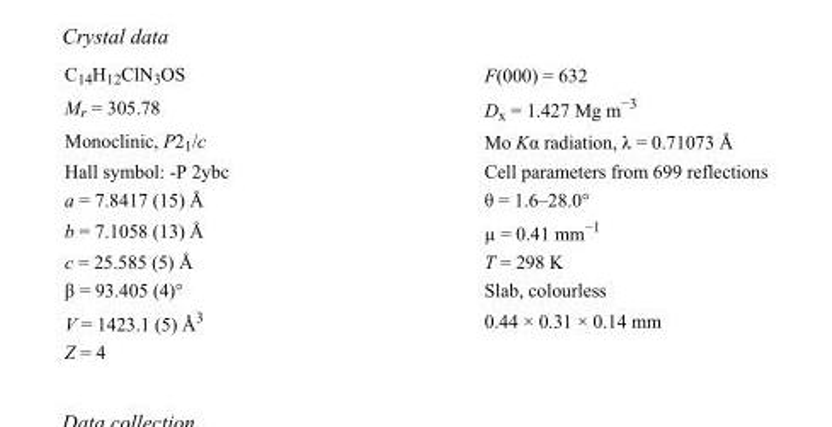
<table><tbody><tr><td>C<sub>14</sub>H<sub>12</sub>ClN<sub>3</sub>OS</td><td>F(000) = 632</td></tr><tr><td>M<sub>r</sub> = 305.78</td><td>D<sub>x</sub> = 1.427 Mg m<sup>−3</sup></td></tr><tr><td>Monoclinic, P2<sub>1</sub>/c</td><td>Mo Kα radiation, λ = 0.71073 Å</td></tr><tr><td>Hall symbol: -P 2ybc</td><td>Cell parameters from 699 reflections</td></tr><tr><td>a = 7.8417 (15) Å</td><td>θ = 1.6–28.0°</td></tr><tr><td>b = 7.1058 (13) Å</td><td>µ = 0.41 mm<sup>−1</sup></td></tr><tr><td>c = 25.585 (5) Å</td><td>T = 298 K</td></tr><tr><td>β = 93.405 (4)°</td><td>Slab, colourless</td></tr><tr><td>V = 1423.1 (5) Å<sup>3</sup></td><td>0.44 × 0.31 × 0.14 mm</td></tr><tr><td>Z = 4</td><td></td></tr></tbody></table>